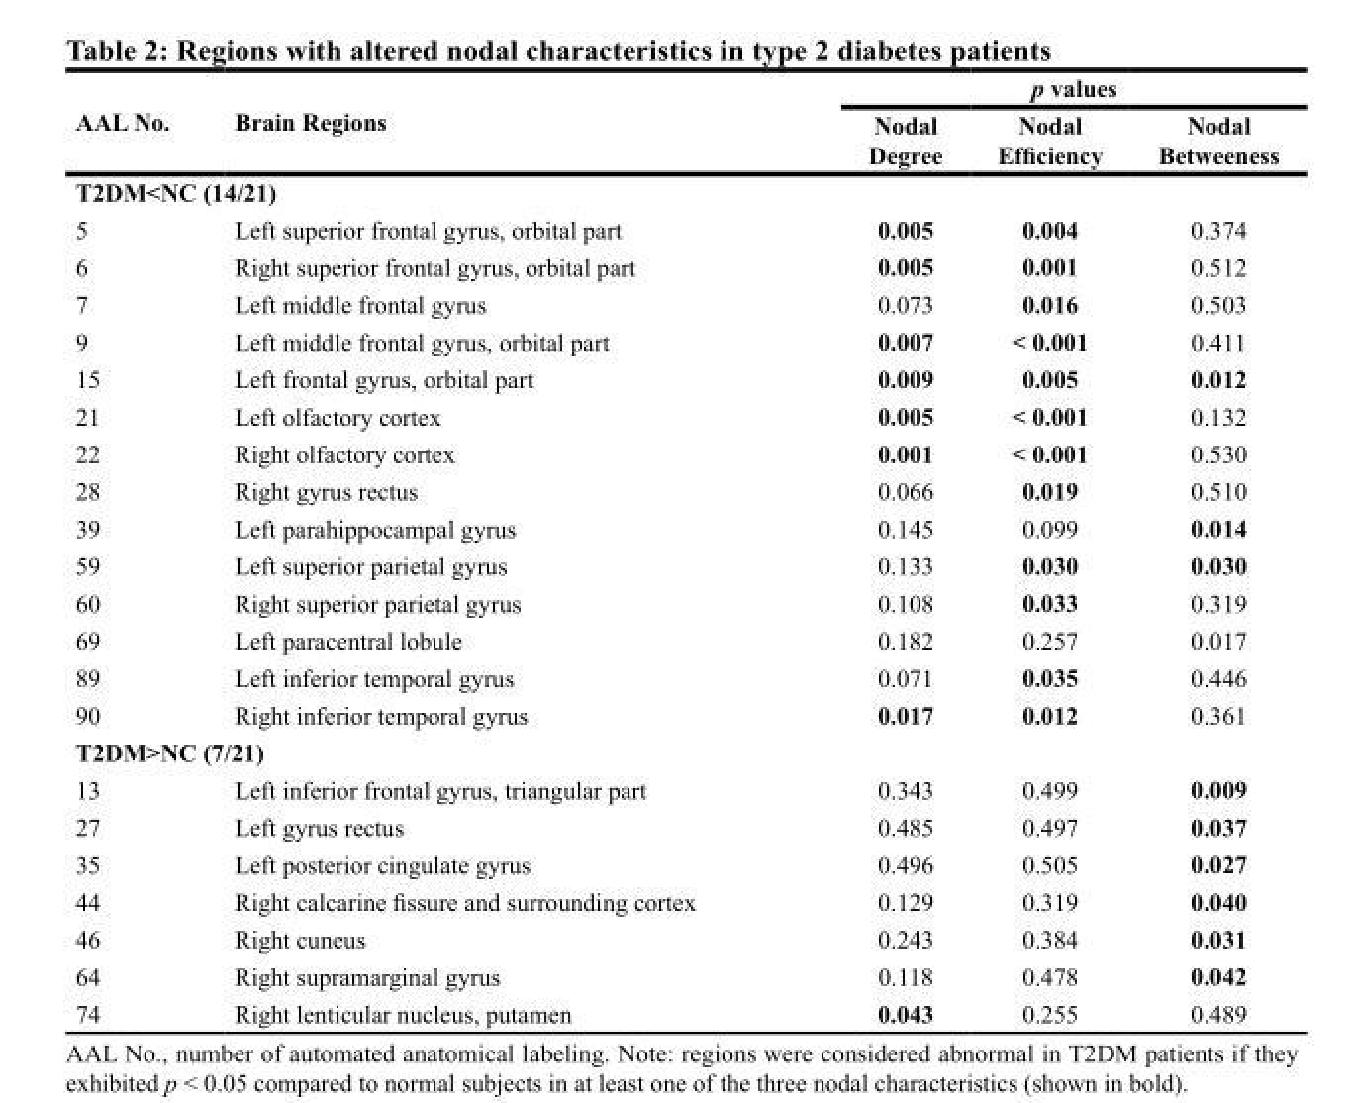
<table><thead><tr><td rowspan="2">AAL No.</td><td rowspan="2">Brain Regions</td><td colspan="3">p values</td></tr><tr><td>Nodal Degree</td><td>Nodal Efficiency</td><td>Nodal Betweeness</td></tr></thead><tbody><tr><td colspan="5">T2DM&lt;NC (14/21)</td></tr><tr><td>5</td><td>Left superior frontal gyrus, orbital part</td><td>0.005</td><td>0.004</td><td>0.374</td></tr><tr><td>6</td><td>Right superior frontal gyrus, orbital part</td><td>0.005</td><td>0.001</td><td>0.512</td></tr><tr><td>7</td><td>Left middle frontal gyrus</td><td>0.073</td><td>0.016</td><td>0.503</td></tr><tr><td>9</td><td>Left middle frontal gyrus, orbital part</td><td>0.007</td><td>&lt; 0.001</td><td>0.411</td></tr><tr><td>15</td><td>Left frontal gyrus, orbital part</td><td>0.009</td><td>0.005</td><td>0.012</td></tr><tr><td>21</td><td>Left olfactory cortex</td><td>0.005</td><td>&lt; 0.001</td><td>0.132</td></tr><tr><td>22</td><td>Right olfactory cortex</td><td>0.001</td><td>&lt; 0.001</td><td>0.530</td></tr><tr><td>28</td><td>Right gyrus rectus</td><td>0.066</td><td>0.019</td><td>0.510</td></tr><tr><td>39</td><td>Left parahippocampal gyrus</td><td>0.145</td><td>0.099</td><td>0.014</td></tr><tr><td>59</td><td>Left superior parietal gyrus</td><td>0.133</td><td>0.030</td><td>0.030</td></tr><tr><td>60</td><td>Right superior parietal gyrus</td><td>0.108</td><td>0.033</td><td>0.319</td></tr><tr><td>69</td><td>Left paracentral lobule</td><td>0.182</td><td>0.257</td><td>0.017</td></tr><tr><td>89</td><td>Left inferior temporal gyrus</td><td>0.071</td><td>0.035</td><td>0.446</td></tr><tr><td>90</td><td>Right inferior temporal gyrus</td><td>0.017</td><td>0.012</td><td>0.361</td></tr><tr><td colspan="5">T2DM&gt;NC (7/21)</td></tr><tr><td>13</td><td>Left inferior frontal gyrus, triangular part</td><td>0.343</td><td>0.499</td><td>0.009</td></tr><tr><td>27</td><td>Left gyrus rectus</td><td>0.485</td><td>0.497</td><td>0.037</td></tr><tr><td>35</td><td>Left posterior cingulate gyrus</td><td>0.496</td><td>0.505</td><td>0.027</td></tr><tr><td>44</td><td>Right calcarine fissure and surrounding cortex</td><td>0.129</td><td>0.319</td><td>0.040</td></tr><tr><td>46</td><td>Right cuneus</td><td>0.243</td><td>0.384</td><td>0.031</td></tr><tr><td>64</td><td>Right supramarginal gyrus</td><td>0.118</td><td>0.478</td><td>0.042</td></tr><tr><td>74</td><td>Right lenticular nucleus, putamen</td><td>0.043</td><td>0.255</td><td>0.489</td></tr></tbody></table>